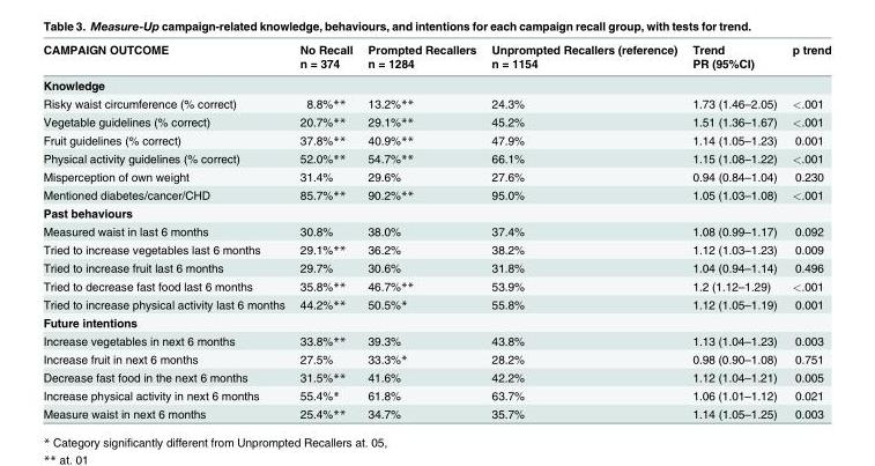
<table><thead><tr><td rowspan="2">CAMPAIGN OUTCOME</td><td rowspan="2">No Recall n = 374</td><td rowspan="2">Prompted Recallers n = 1284</td><td rowspan="2">Unprompted Recallers (reference) n = 1154</td><td rowspan="2">Trend PR (95%CI)</td><td rowspan="2">p trend</td></tr><tr></tr></thead><tbody><tr><td colspan="6">Knowledge</td></tr><tr><td>Risky waist circumference (% correct)</td><td>8.8%**</td><td>13.2%**</td><td>24.3%</td><td>1.73 (1.46–2.05)</td><td>&lt;.001</td></tr><tr><td>Vegetable guidelines (% correct)</td><td>20.7%**</td><td>29.1%**</td><td>45.2%</td><td>1.51 (1.36–1.67)</td><td>&lt;.001</td></tr><tr><td>Fruit guidelines (% correct)</td><td>37.8%**</td><td>40.9%**</td><td>47.9%</td><td>1.14 (1.05–1.23)</td><td>0.001</td></tr><tr><td>Physical activity guidelines (% correct)</td><td>52.0%**</td><td>54.7%**</td><td>66.1%</td><td>1.15 (1.08–1.22)</td><td>&lt;.001</td></tr><tr><td>Misperception of own weight</td><td>31.4%</td><td>29.6%</td><td>27.6%</td><td>0.94 (0.84–1.04)</td><td>0.230</td></tr><tr><td>Mentioned diabetes/cancer/CHD</td><td>85.7%**</td><td>90.2%**</td><td>95.0%</td><td>1.05 (1.03–1.08)</td><td>&lt;.001</td></tr><tr><td colspan="6">Past behaviours</td></tr><tr><td>Measured waist in last 6 months</td><td>30.8%</td><td>38.0%</td><td>37.4%</td><td>1.08 (0.99–1.17)</td><td>0.092</td></tr><tr><td>Tried to increase vegetables last 6 months</td><td>29.1%**</td><td>36.2%</td><td>38.2%</td><td>1.12 (1.03–1.23)</td><td>0.009</td></tr><tr><td>Tried to increase fruit last 6 months</td><td>29.7%</td><td>30.6%</td><td>31.8%</td><td>1.04 (0.94–1.14)</td><td>0.496</td></tr><tr><td>Tried to decrease fast food last 6 months</td><td>35.8%**</td><td>46.7%**</td><td>53.9%</td><td>1.2 (1.12–1.29)</td><td>&lt;.001</td></tr><tr><td>Tried to increase physical activity last 6 months</td><td>44.2%**</td><td>50.5%*</td><td>55.8%</td><td>1.12 (1.05–1.19)</td><td>0.001</td></tr><tr><td colspan="6">Future intentions</td></tr><tr><td>Increase vegetables in next 6 months</td><td>33.8%**</td><td>39.3%</td><td>43.8%</td><td>1.13 (1.04–1.23)</td><td>0.003</td></tr><tr><td>Increase fruit in next 6 months</td><td>27.5%</td><td>33.3%*</td><td>28.2%</td><td>0.98 (0.90–1.08)</td><td>0.751</td></tr><tr><td>Decrease fast food in the next 6 months</td><td>31.5%**</td><td>41.6%</td><td>42.2%</td><td>1.12 (1.04–1.21)</td><td>0.005</td></tr><tr><td>Increase physical activity in next 6 months</td><td>55.4%*</td><td>61.8%</td><td>63.7%</td><td>1.06 (1.01–1.12)</td><td>0.021</td></tr><tr><td>Measure waist in next 6 months</td><td>25.4%**</td><td>34.7%</td><td>35.7%</td><td>1.14 (1.05–1.25)</td><td>0.003</td></tr></tbody></table>